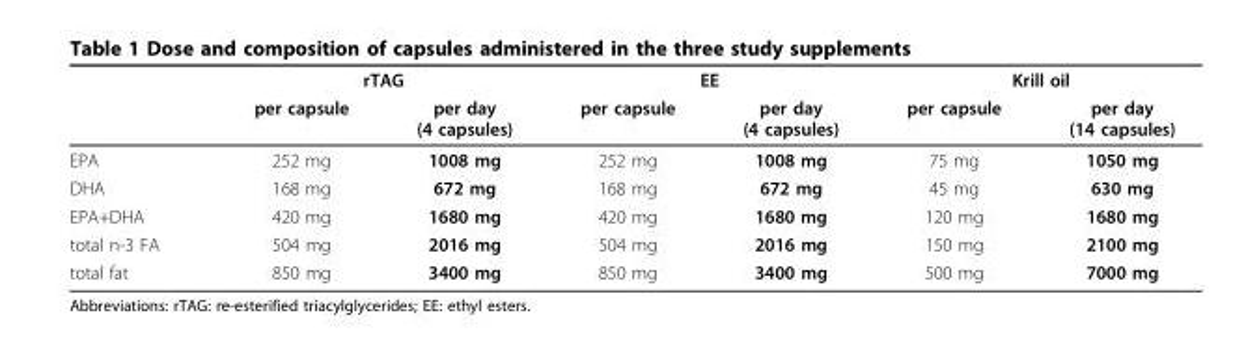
<table><thead><tr><td rowspan="2"></td><td colspan="2">rTAG</td><td colspan="2">EE</td><td colspan="2">Krill oil</td></tr><tr><td>per capsule</td><td>per day (4 capsules)</td><td>per capsule</td><td>per day (4 capsules)</td><td>per capsule</td><td>per day (14 capsules)</td></tr></thead><tbody><tr><td>EPA</td><td>252 mg</td><td>1008 mg</td><td>252 mg</td><td>1008 mg</td><td>75 mg</td><td>1050 mg</td></tr><tr><td>DHA</td><td>168 mg</td><td>672 mg</td><td>168 mg</td><td>672 mg</td><td>45 mg</td><td>630 mg</td></tr><tr><td>EPA+DHA</td><td>420 mg</td><td>1680 mg</td><td>420 mg</td><td>1680 mg</td><td>120 mg</td><td>1680 mg</td></tr><tr><td>total n-3 FA</td><td>504 mg</td><td>2016 mg</td><td>504 mg</td><td>2016 mg</td><td>150 mg</td><td>2100 mg</td></tr><tr><td>total fat</td><td>850 mg</td><td>3400 mg</td><td>850 mg</td><td>3400 mg</td><td>500 mg</td><td>7000 mg</td></tr></tbody></table>